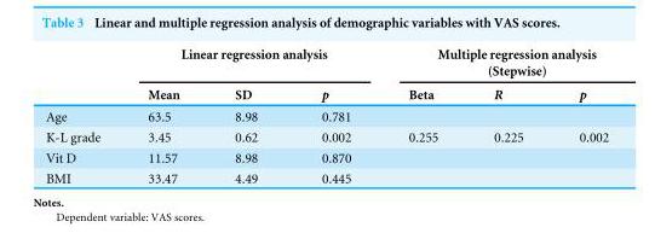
<table><thead><tr><td rowspan="2"></td><td colspan="3">Linear regression analysis</td><td colspan="3">Multiple regression analysis (Stepwise)</td></tr><tr><td>Mean</td><td>SD</td><td>p</td><td>Beta</td><td>R</td><td>p</td></tr></thead><tbody><tr><td>Age</td><td>63.5</td><td>8.98</td><td>0.781</td><td></td><td></td><td></td></tr><tr><td>K-L grade</td><td>3.45</td><td>0.62</td><td>0.002</td><td>0.255</td><td>0.225</td><td>0.002</td></tr><tr><td>Vit D</td><td>11.57</td><td>8.98</td><td>0.870</td><td></td><td></td><td></td></tr><tr><td>BMI</td><td>33.47</td><td>4.49</td><td>0.445</td><td></td><td></td><td></td></tr></tbody></table>